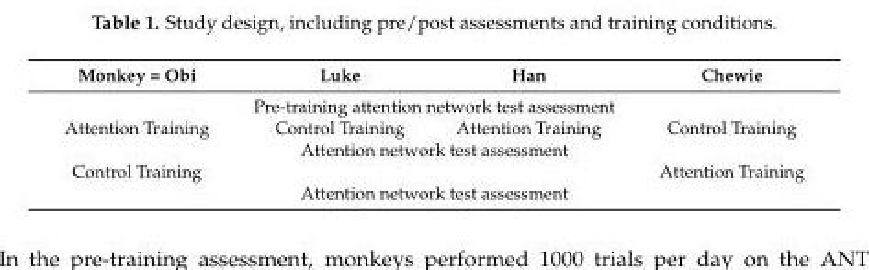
<table><thead><tr><td>Monkey = Obi</td><td>Luke</td><td>Han</td><td>Chewie</td></tr></thead><tbody><tr><td colspan="4">Pre-training attention network test assessment</td></tr><tr><td>Attention Training</td><td>Control Training</td><td>Attention Training</td><td>Control Training</td></tr><tr><td colspan="4">Attention network test assessment</td></tr><tr><td>Control Training</td><td></td><td></td><td>Attention Training</td></tr><tr><td colspan="4">Attention network test assessment</td></tr></tbody></table>